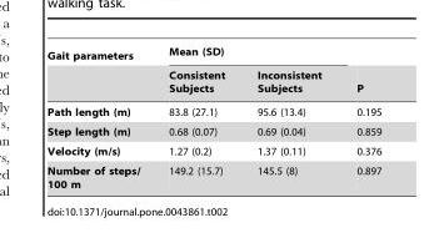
<table><thead><tr><td rowspan="2">Gait parameters</td><td colspan="2">Mean (SD)</td><td rowspan="2">P</td></tr><tr><td>Consistent Subjects</td><td>Inconsistent Subjects</td></tr></thead><tbody><tr><td>Path length (m)</td><td>83.8 (27.1)</td><td>95.6 (13.4)</td><td>0.195</td></tr><tr><td>Step length (m)</td><td>0.68 (0.07)</td><td>0.69 (0.04)</td><td>0.859</td></tr><tr><td>Velocity (m/s)</td><td>1.27 (0.2)</td><td>1.37 (0.11)</td><td>0.376</td></tr><tr><td>Number of steps/ 100 m</td><td>149.2 (15.7)</td><td>145.5 (8)</td><td>0.897</td></tr></tbody></table>